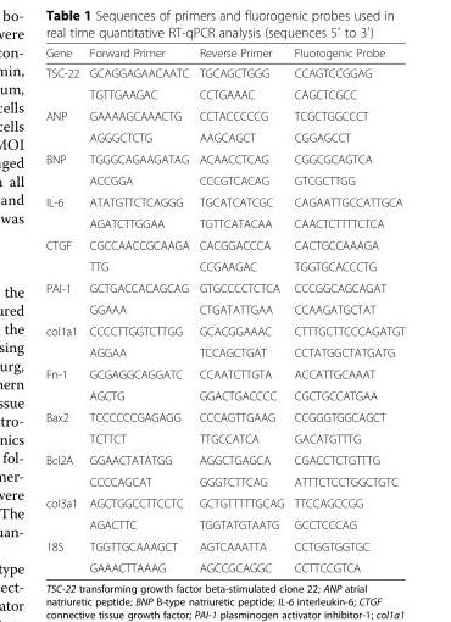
<table><thead><tr><td>Gene</td><td>Forward Primer</td><td>Reverse Primer</td><td>Fluorogenic Probe</td></tr></thead><tbody><tr><td rowspan="2">TSC-22</td><td>GCAGGAGAACAATC</td><td>TGCAGCTGGG</td><td>CCAGTCCGGAG</td></tr><tr><td>TGTTGAAGAC</td><td>CCTGAAAC</td><td>CAGCTCGCC</td></tr><tr><td rowspan="2">ANP</td><td>GAAAAGCAAACTG</td><td>CCTACCCCCG</td><td>TCGCTGGCCCT</td></tr><tr><td>AGGGCTCTG</td><td>AAGCAGCT</td><td>CGGAGCCT</td></tr><tr><td rowspan="2">BNP</td><td>TGGGCAGAAGATAG</td><td>ACAACCTCAG</td><td>CGGCGCAGTCA</td></tr><tr><td>ACCGGA</td><td>CCCGTCACAG</td><td>GTCGCTTGG</td></tr><tr><td rowspan="2">IL-6</td><td>ATATGTTCTCAGGG</td><td>TGCATCATCGC</td><td>CAGAATTGCCATTGCA</td></tr><tr><td>AGATCTTGGAA</td><td>TGTTCATACAA</td><td>CAACTCTTTTCTCA</td></tr><tr><td rowspan="2">CTGF</td><td>CGCCAACCGCAAGA</td><td>CACGGACCCA</td><td>CACTGCCAAAGA</td></tr><tr><td>TTG</td><td>CCGAAGAC</td><td>TGGTGCACCCTG</td></tr><tr><td rowspan="2">PAI-1</td><td>GCTGACCACAGCAG</td><td>GTGCCCCTCTCA</td><td>CCCGGCAGCAGAT</td></tr><tr><td>GGAAA</td><td>CTGATATTGAA</td><td>CCAAGATGCTAT</td></tr><tr><td rowspan="2">col1a1</td><td>CCCCTTGGTCTTGG</td><td>GCACGGAAAC</td><td>CTTTGCTTCCCAGATGT</td></tr><tr><td>AGGAA</td><td>TCCAGCTGAT</td><td>CCTATGGCTATGATG</td></tr><tr><td rowspan="2">Fn-1</td><td>GCGAGGCAGGATC</td><td>CCAATCTTGTA</td><td>ACCATTGCAAAT</td></tr><tr><td>AGCTG</td><td>GGACTGACCCC</td><td>CGCTGCCATGAA</td></tr><tr><td rowspan="2">Bax2</td><td>TCCCCCCGAGAGG</td><td>CCCAGTTGAAG</td><td>CCGGGTGGCAGCT</td></tr><tr><td>TCTTCT</td><td>TTGCCATCA</td><td>GACATGTTTG</td></tr><tr><td rowspan="2">Bcl2A</td><td>GGAACTATATGG</td><td>AGGCTGAGCA</td><td>CGACCTCTGTTTG</td></tr><tr><td>CCCCAGCAT</td><td>GGGTCTTCAG</td><td>ATTTCTCCTGGCTGTC</td></tr><tr><td rowspan="2">col3a1</td><td>AGCTGGCCTTCCTC</td><td>GCTGTTTTTGCAG</td><td>TTCCAGCCGG</td></tr><tr><td>AGACTTC</td><td>TGGTATGTAATG</td><td>GCCTCCCAG</td></tr><tr><td rowspan="2">18S</td><td>TGGTTGCAAAGCT</td><td>AGTCAAATTA</td><td>CCTGGTGGTGC</td></tr><tr><td>GAAACTTAAAG</td><td>AGCCGCAGGC</td><td>CCTTCCGTCA</td></tr></tbody></table>